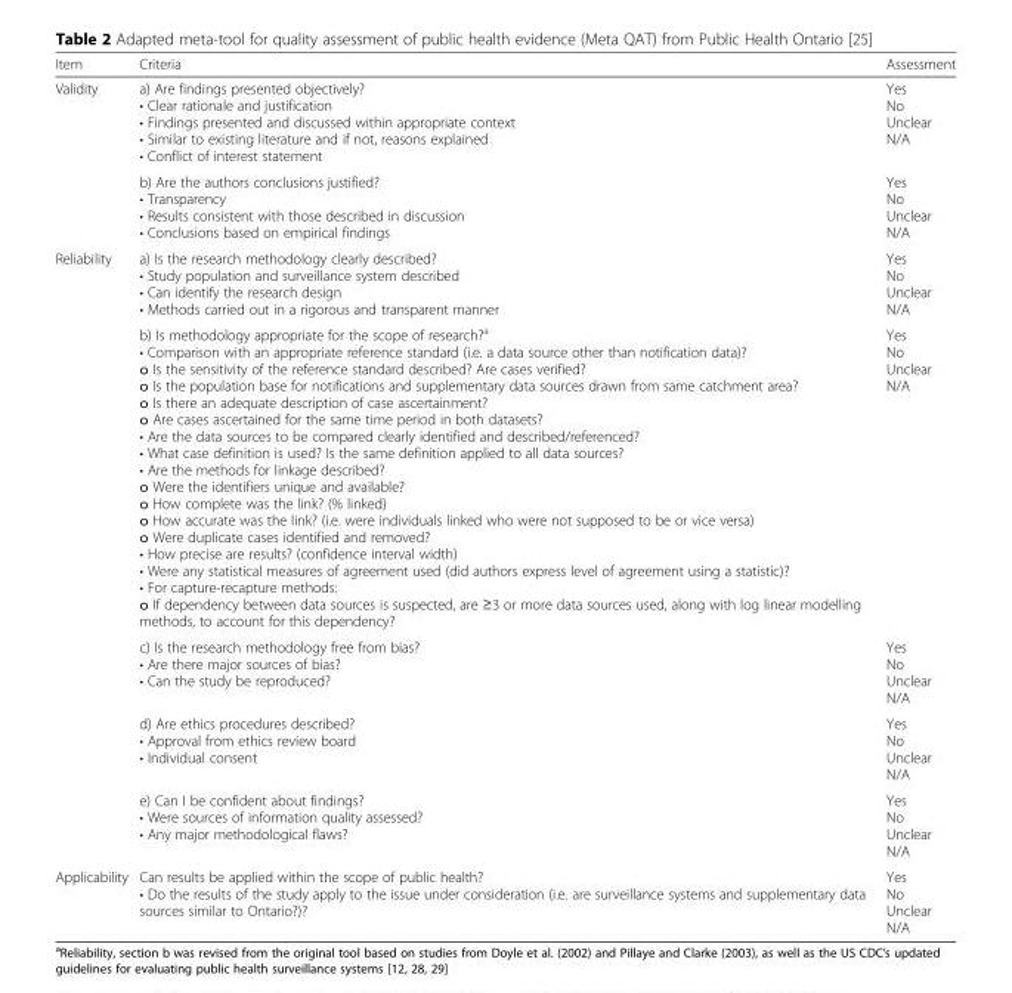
<table><thead><tr><td>Item</td><td>Criteria</td><td>Assessment</td></tr></thead><tbody><tr><td rowspan="2">Validity</td><td>a) Are findings presented objectively? • Clear rationale and justification • Findings presented and discussed within appropriate context • Similar to existing literature and if not, reasons explained • Conflict of interest statement</td><td>Yes No Unclear N/A</td></tr><tr><td>b) Are the authors conclusions justified? • Transparency • Results consistent with those described in discussion • Conclusions based on empirical findings</td><td>Yes No Unclear N/A</td></tr><tr><td rowspan="5">Reliability</td><td>a) Is the research methodology clearly described? • Study population and surveillance system described • Can identify the research design • Methods carried out in a rigorous and transparent manner</td><td>Yes No Unclear N/A</td></tr><tr><td>b) Is methodology appropriate for the scope of research?<sup>a</sup> • Comparison with an appropriate reference standard (i.e. a data source other than notification data)? o Is the sensitivity of the reference standard described? Are cases verified? o Is the population base for notifications and supplementary data sources drawn from same catchment area? o Is there an adequate description of case ascertainment? o Are cases ascertained for the same time period in both datasets? • Are the data sources to be compared clearly identified and described/referenced? • What case definition is used? Is the same definition applied to all data sources? • Are the methods for linkage described? o Were the identifiers unique and available? o How complete was the link? (% linked) o How accurate was the link? (i.e. were individuals linked who were not supposed to be or vice versa) o Were duplicate cases identified and removed? • How precise are results? (confidence interval width) • Were any statistical measures of agreement used (did authors express level of agreement using a statistic)? • For capture-recapture methods: o If dependency between data sources is suspected, are ≥3 or more data sources used, along with log linear modelling methods, to account for this dependency?</td><td>Yes No Unclear N/A</td></tr><tr><td>c) Is the research methodology free from bias? • Are there major sources of bias? • Can the study be reproduced?</td><td>Yes No Unclear N/A</td></tr><tr><td>d) Are ethics procedures described? • Approval from ethics review board • Individual consent</td><td>Yes No Unclear N/A</td></tr><tr><td>e) Can I be confident about findings? • Were sources of information quality assessed? • Any major methodological flaws?</td><td>Yes No Unclear N/A</td></tr><tr><td>Applicability</td><td>Can results be applied within the scope of public health? • Do the results of the study apply to the issue under consideration (i.e. are surveillance systems and supplementary data sources similar to Ontario?)?</td><td>Yes No Unclear N/A</td></tr></tbody></table>